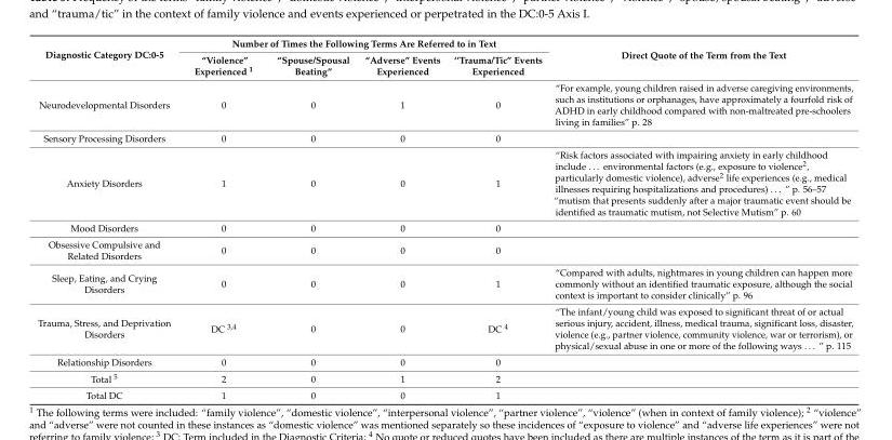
<table><thead><tr><td rowspan="2">Diagnostic Category DC:0-5</td><td colspan="4">Number of Times the Following Terms Are Referred to in Text</td><td rowspan="2">Direct Quote of the Term from the Text</td></tr><tr><td>“Violence” Experienced <sup>1</sup></td><td>“Spouse/Spousal Beating”</td><td>“Adverse” Events Experienced</td><td>‘’Trauma/Tic” Events Experienced</td></tr></thead><tbody><tr><td>Neurodevelopmental Disorders</td><td>0</td><td>0</td><td>1</td><td>0</td><td>“For example, young children raised in adverse caregiving environments, such as institutions or orphanages, have approximately a fourfold risk of ADHD in early childhood compared with non-maltreated pre-schoolers living in families” p. 28</td></tr><tr><td>Sensory Processing Disorders</td><td>0</td><td>0</td><td>0</td><td>0</td><td></td></tr><tr><td>Anxiety Disorders</td><td>1</td><td>0</td><td>0</td><td>1</td><td>“Risk factors associated with impairing anxiety in early childhood include . . . environmental factors (e.g., exposure to violence<sup>2</sup>, particularly domestic violence), adverse<sup>2</sup> life experiences (e.g., medical illnesses requiring hospitalizations and procedures) . . . ” p. 56–57 “mutism that presents suddenly after a major traumatic event should be identified as traumatic mutism, not Selective Mutism” p. 60</td></tr><tr><td>Mood Disorders</td><td>0</td><td>0</td><td>0</td><td>0</td><td></td></tr><tr><td>Obsessive Compulsive and Related Disorders</td><td>0</td><td>0</td><td>0</td><td>0</td><td></td></tr><tr><td>Sleep, Eating, and Crying Disorders</td><td>0</td><td>0</td><td>0</td><td>1</td><td>“Compared with adults, nightmares in young children can happen more commonly without an identified traumatic exposure, although the social context is important to consider clinically” p. 96</td></tr><tr><td>Trauma, Stress, and Deprivation Disorders</td><td>DC <sup>3,4</sup></td><td>0</td><td>0</td><td>DC <sup>4</sup></td><td>“The infant/young child was exposed to significant threat of or actual serious injury, accident, illness, medical trauma, significant loss, disaster, violence (e.g., partner violence, community violence, war or terrorism), or physical/sexual abuse in one or more of the following ways . . . ” p. 115</td></tr><tr><td>Relationship Disorders</td><td>0</td><td>0</td><td>0</td><td>0</td><td></td></tr><tr><td>Total <sup>5</sup></td><td>2</td><td>0</td><td>1</td><td>2</td><td></td></tr><tr><td>Total DC</td><td>1</td><td>0</td><td>0</td><td>1</td><td></td></tr></tbody></table>